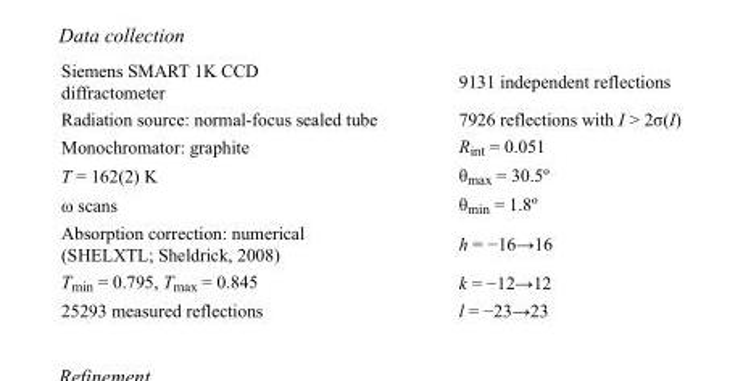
<table><tbody><tr><td>Siemens SMART 1K CCD diffractometer</td><td>9131 independent reflections</td></tr><tr><td>Radiation source: normal-focus sealed tube</td><td>7926 reflections with I &gt; 2σ(I)</td></tr><tr><td>Monochromator: graphite</td><td>R<sub>int</sub> = 0.051</td></tr><tr><td>T = 162(2) K</td><td>θ<sub>max</sub> = 30.5º</td></tr><tr><td>ω scans</td><td>θ<sub>min</sub> = 1.8º</td></tr><tr><td>Absorption correction: numerical (SHELXTL; Sheldrick, 2008)</td><td>h = −16→16</td></tr><tr><td>T<sub>min</sub> = 0.795, T<sub>max</sub> = 0.845</td><td>k = −12→12</td></tr><tr><td>25293 measured reflections</td><td>l = −23→23</td></tr></tbody></table>